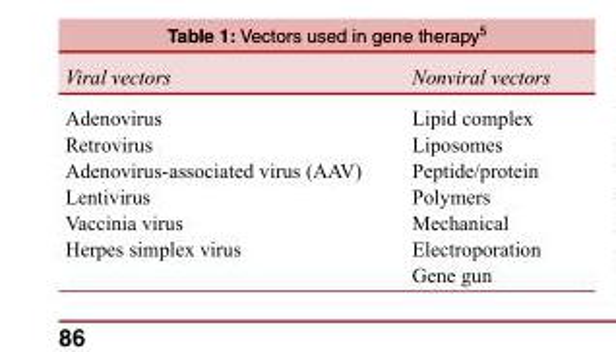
<table><tbody><tr><td>Viral vectors</td><td>Nonviral vectors</td></tr><tr><td>Adenovirus</td><td>Lipid complex</td></tr><tr><td>Retrovirus</td><td>Liposomes</td></tr><tr><td>Adenovirus-associated virus (AAV)</td><td>Peptide/protein</td></tr><tr><td>Lentivirus</td><td>Polymers</td></tr><tr><td>Vaccinia virus</td><td>Mechanical</td></tr><tr><td rowspan="2">Herpes simplex virus</td><td>Electroporation</td></tr><tr><td>Gene gun</td></tr></tbody></table>